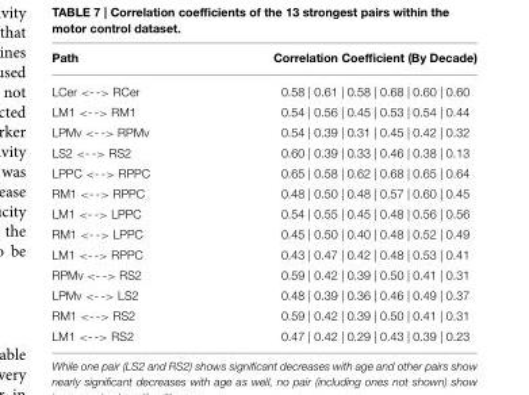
<table><thead><tr><td>Path</td><td>Correlation Coefficient (By Decade)</td></tr></thead><tbody><tr><td>LCer &lt;- -&gt; RCer</td><td>0.58 | 0.61 | 0.58 | 0.68 | 0.60 | 0.60</td></tr><tr><td>LM1 &lt;- -&gt; RM1</td><td>0.54 | 0.56 | 0.45 | 0.53 | 0.54 | 0.44</td></tr><tr><td>LPMv &lt;- -&gt; RPMv</td><td>0.54 | 0.39 | 0.31 | 0.45 | 0.42 | 0.32</td></tr><tr><td>LS2 &lt;- -&gt; RS2</td><td>0.60 | 0.39 | 0.33 | 0.46 | 0.38 | 0.13</td></tr><tr><td>LPPC &lt;- -&gt; RPPC</td><td>0.65 | 0.58 | 0.62 | 0.68 | 0.65 | 0.64</td></tr><tr><td>RM1 &lt;- -&gt; RPPC</td><td>0.48 | 0.50 | 0.48 | 0.57 | 0.60 | 0.45</td></tr><tr><td>LM1 &lt;- -&gt; LPPC</td><td>0.54 | 0.55 | 0.45 | 0.48 | 0.56 | 0.56</td></tr><tr><td>RM1 &lt;- -&gt; LPPC</td><td>0.45 | 0.50 | 0.40 | 0.48 | 0.52 | 0.49</td></tr><tr><td>LM1 &lt;- -&gt; RPPC</td><td>0.43 | 0.47 | 0.42 | 0.48 | 0.53 | 0.41</td></tr><tr><td>RPMv &lt;- -&gt; RS2</td><td>0.59 | 0.42 | 0.39 | 0.50 | 0.41 | 0.31</td></tr><tr><td>LPMv &lt;- -&gt; LS2</td><td>0.48 | 0.39 | 0.36 | 0.46 | 0.49 | 0.37</td></tr><tr><td>RM1 &lt;- -&gt; RS2</td><td>0.59 | 0.42 | 0.39 | 0.50 | 0.41 | 0.31</td></tr><tr><td>LM1 &lt;- -&gt; RS2</td><td>0.47 | 0.42 | 0.29 | 0.43 | 0.39 | 0.23</td></tr></tbody></table>